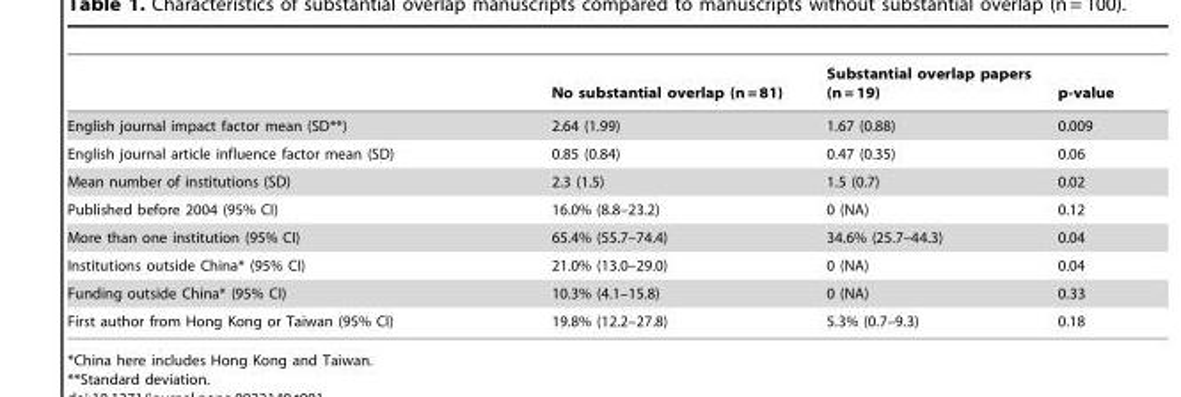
<table><thead><tr><td></td><td>No substantial overlap (n = 81)</td><td>Substantial overlap papers (n = 19)</td><td>p-value</td></tr></thead><tbody><tr><td>English journal impact factor mean (SD**)</td><td>2.64 (1.99)</td><td>1.67 (0.88)</td><td>0.009</td></tr><tr><td>English journal article influence factor mean (SD)</td><td>0.85 (0.84)</td><td>0.47 (0.35)</td><td>0.06</td></tr><tr><td>Mean number of institutions (SD)</td><td>2.3 (1.5)</td><td>1.5 (0.7)</td><td>0.02</td></tr><tr><td>Published before 2004 (95% CI)</td><td>16.0% (8.8–23.2)</td><td>0 (NA)</td><td>0.12</td></tr><tr><td>More than one institution (95% CI)</td><td>65.4% (55.7–74.4)</td><td>34.6% (25.7–44.3)</td><td>0.04</td></tr><tr><td>Institutions outside China* (95% CI)</td><td>21.0% (13.0–29.0)</td><td>0 (NA)</td><td>0.04</td></tr><tr><td>Funding outside China* (95% CI)</td><td>10.3% (4.1–15.8)</td><td>0 (NA)</td><td>0.33</td></tr><tr><td>First author from Hong Kong or Taiwan (95% CI)</td><td>19.8% (12.2–27.8)</td><td>5.3% (0.7–9.3)</td><td>0.18</td></tr></tbody></table>